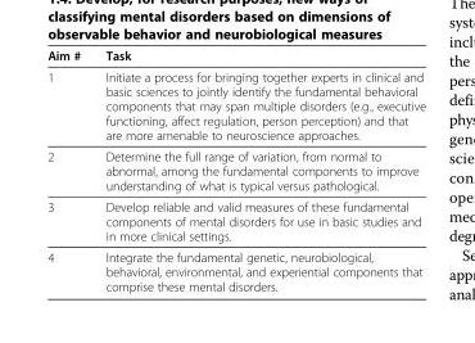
<table><thead><tr><td>Aim #</td><td>Task</td></tr></thead><tbody><tr><td>1</td><td>Initiate a process for bringing together experts in clinical and basic sciences to jointly identify the fundamental behavioral components that may span multiple disorders (e.g., executive functioning, affect regulation, person perception) and that are more amenable to neuroscience approaches.</td></tr><tr><td>2</td><td>Determine the full range of variation, from normal to abnormal, among the fundamental components to improve understanding of what is typical versus pathological.</td></tr><tr><td>3</td><td>Develop reliable and valid measures of these fundamental components of mental disorders for use in basic studies and in more clinical settings.</td></tr><tr><td>4</td><td>Integrate the fundamental genetic, neurobiological, behavioral, environmental, and experiential components that comprise these mental disorders.</td></tr></tbody></table>